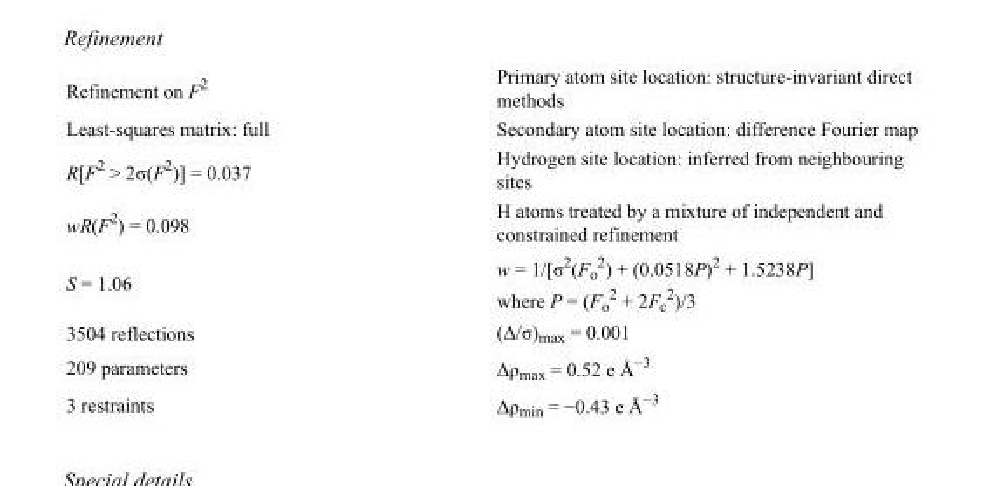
<table><tbody><tr><td>Refinement on F<sup>2</sup></td><td>Primary atom site location: structure-invariant direct methods</td></tr><tr><td>Least-squares matrix: full</td><td>Secondary atom site location: difference Fourier map</td></tr><tr><td>R[F<sup>2</sup> &gt; 2σ(F<sup>2</sup>)] = 0.037</td><td>Hydrogen site location: inferred from neighbouring sites</td></tr><tr><td>wR(F<sup>2</sup>) = 0.098</td><td>H atoms treated by a mixture of independent and constrained refinement</td></tr><tr><td>S = 1.06</td><td>w = 1/[σ<sup>2</sup>(F<sub>o</sub> <sup>2</sup>) + (0.0518P)<sup>2</sup> + 1.5238P] where P = (F<sub>o</sub> <sup>2</sup> + 2F<sub>c</sub> <sup>2</sup>)/3</td></tr><tr><td>3504 reflections</td><td>(Δ/σ)<sub>max</sub> = 0.001</td></tr><tr><td>209 parameters</td><td>Δρ<sub>max</sub> = 0.52 e Å<sup>−3</sup></td></tr><tr><td>3 restraints</td><td>Δρ<sub>min</sub> = −0.43 e Å<sup>−3</sup></td></tr></tbody></table>